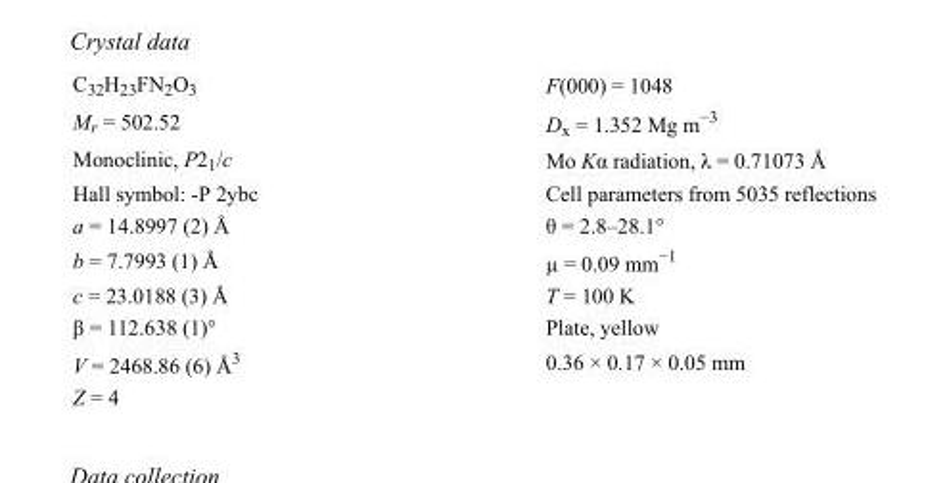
<table><tbody><tr><td>C<sub>32</sub>H<sub>23</sub>FN<sub>2</sub>O<sub>3</sub></td><td>F(000) = 1048</td></tr><tr><td>M<sub>r</sub> = 502.52</td><td>D<sub>x</sub> = 1.352 Mg m<sup>−3</sup></td></tr><tr><td>Monoclinic, P2<sub>1</sub>/c</td><td>Mo Kα radiation, λ = 0.71073 Å</td></tr><tr><td>Hall symbol: -P 2ybc</td><td>Cell parameters from 5035 reflections</td></tr><tr><td>a = 14.8997 (2) Å</td><td>θ = 2.8–28.1°</td></tr><tr><td>b = 7.7993 (1) Å</td><td>µ = 0.09 mm<sup>−1</sup></td></tr><tr><td>c = 23.0188 (3) Å</td><td>T = 100 K</td></tr><tr><td>β = 112.638 (1)°</td><td>Plate, yellow</td></tr><tr><td>V = 2468.86 (6) Å<sup>3</sup></td><td>0.36 × 0.17 × 0.05 mm</td></tr><tr><td>Z = 4</td><td></td></tr></tbody></table>